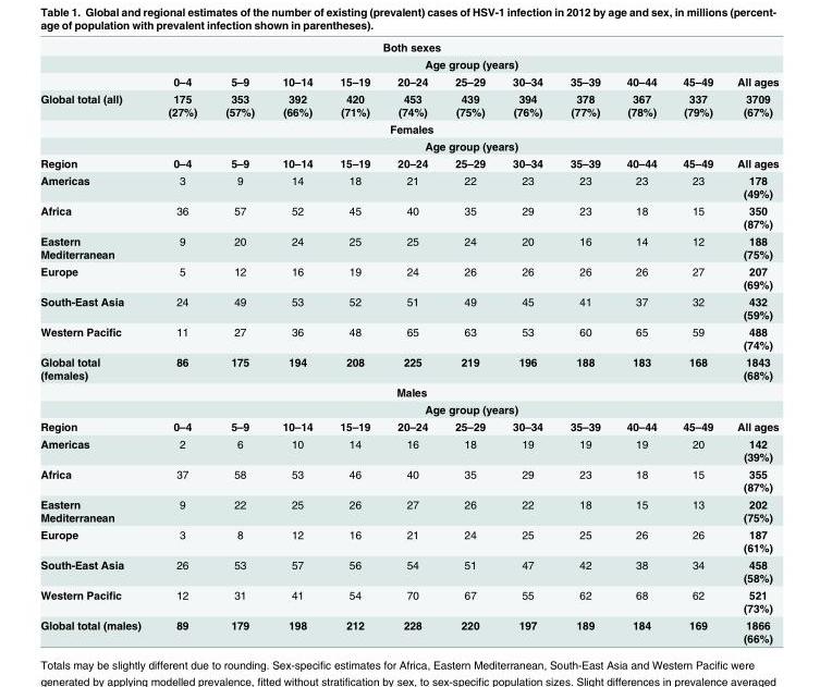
<table><tbody><tr><td colspan="12">Both sexes</td></tr><tr><td></td><td colspan="11">Age group (years)</td></tr><tr><td></td><td>0–4</td><td>5–9</td><td>10–14</td><td>15–19</td><td>20–24</td><td>25–29</td><td>30–34</td><td>35–39</td><td>40–44</td><td>45–49</td><td>All ages</td></tr><tr><td>Global total (all)</td><td>175 (27%)</td><td>353 (57%)</td><td>392 (66%)</td><td>420 (71%)</td><td>453 (74%)</td><td>439 (75%)</td><td>394 (76%)</td><td>378 (77%)</td><td>367 (78%)</td><td>337 (79%)</td><td>3709 (67%)</td></tr><tr><td colspan="12">Females</td></tr><tr><td></td><td colspan="11">Age group (years)</td></tr><tr><td>Region</td><td>0–4</td><td>5–9</td><td>10–14</td><td>15–19</td><td>20–24</td><td>25–29</td><td>30–34</td><td>35–39</td><td>40–44</td><td>45–49</td><td>All ages</td></tr><tr><td>Americas</td><td>3</td><td>9</td><td>14</td><td>18</td><td>21</td><td>22</td><td>23</td><td>23</td><td>23</td><td>23</td><td>178 (49%)</td></tr><tr><td>Africa</td><td>36</td><td>57</td><td>52</td><td>45</td><td>40</td><td>35</td><td>29</td><td>23</td><td>18</td><td>15</td><td>350 (87%)</td></tr><tr><td>Eastern Mediterranean</td><td>9</td><td>20</td><td>24</td><td>25</td><td>25</td><td>24</td><td>20</td><td>16</td><td>14</td><td>12</td><td>188 (75%)</td></tr><tr><td>Europe</td><td>5</td><td>12</td><td>16</td><td>19</td><td>24</td><td>26</td><td>26</td><td>26</td><td>26</td><td>27</td><td>207 (69%)</td></tr><tr><td>South-East Asia</td><td>24</td><td>49</td><td>53</td><td>52</td><td>51</td><td>49</td><td>45</td><td>41</td><td>37</td><td>32</td><td>432 (59%)</td></tr><tr><td>Western Pacific</td><td>11</td><td>27</td><td>36</td><td>48</td><td>65</td><td>63</td><td>53</td><td>60</td><td>65</td><td>59</td><td>488 (74%)</td></tr><tr><td>Global total (females)</td><td>86</td><td>175</td><td>194</td><td>208</td><td>225</td><td>219</td><td>196</td><td>188</td><td>183</td><td>168</td><td>1843 (68%)</td></tr><tr><td colspan="12">Males</td></tr><tr><td></td><td colspan="11">Age group (years)</td></tr><tr><td>Region</td><td>0–4</td><td>5–9</td><td>10–14</td><td>15–19</td><td>20–24</td><td>25–29</td><td>30–34</td><td>35–39</td><td>40–44</td><td>45–49</td><td>All ages</td></tr><tr><td>Americas</td><td>2</td><td>6</td><td>10</td><td>14</td><td>16</td><td>18</td><td>19</td><td>19</td><td>19</td><td>20</td><td>142 (39%)</td></tr><tr><td>Africa</td><td>37</td><td>58</td><td>53</td><td>46</td><td>40</td><td>35</td><td>29</td><td>23</td><td>18</td><td>15</td><td>355 (87%)</td></tr><tr><td>Eastern Mediterranean</td><td>9</td><td>22</td><td>25</td><td>26</td><td>27</td><td>26</td><td>22</td><td>18</td><td>15</td><td>13</td><td>202 (75%)</td></tr><tr><td>Europe</td><td>3</td><td>8</td><td>12</td><td>16</td><td>21</td><td>24</td><td>25</td><td>25</td><td>26</td><td>26</td><td>187 (61%)</td></tr><tr><td>South-East Asia</td><td>26</td><td>53</td><td>57</td><td>56</td><td>54</td><td>51</td><td>47</td><td>42</td><td>38</td><td>34</td><td>458 (58%)</td></tr><tr><td>Western Pacific</td><td>12</td><td>31</td><td>41</td><td>54</td><td>70</td><td>67</td><td>55</td><td>62</td><td>68</td><td>62</td><td>521 (73%)</td></tr><tr><td>Global total (males)</td><td>89</td><td>179</td><td>198</td><td>212</td><td>228</td><td>220</td><td>197</td><td>189</td><td>184</td><td>169</td><td>1866 (66%)</td></tr></tbody></table>